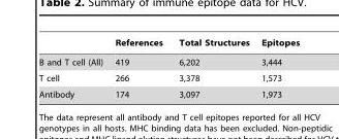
<table><thead><tr><td></td><td>References</td><td>Total Structures</td><td>Epitopes</td></tr></thead><tbody><tr><td>B and T cell (All)</td><td>419</td><td>6,202</td><td>3,444</td></tr><tr><td>T cell</td><td>266</td><td>3,378</td><td>1,573</td></tr><tr><td>Antibody</td><td>174</td><td>3,097</td><td>1,973</td></tr></tbody></table>